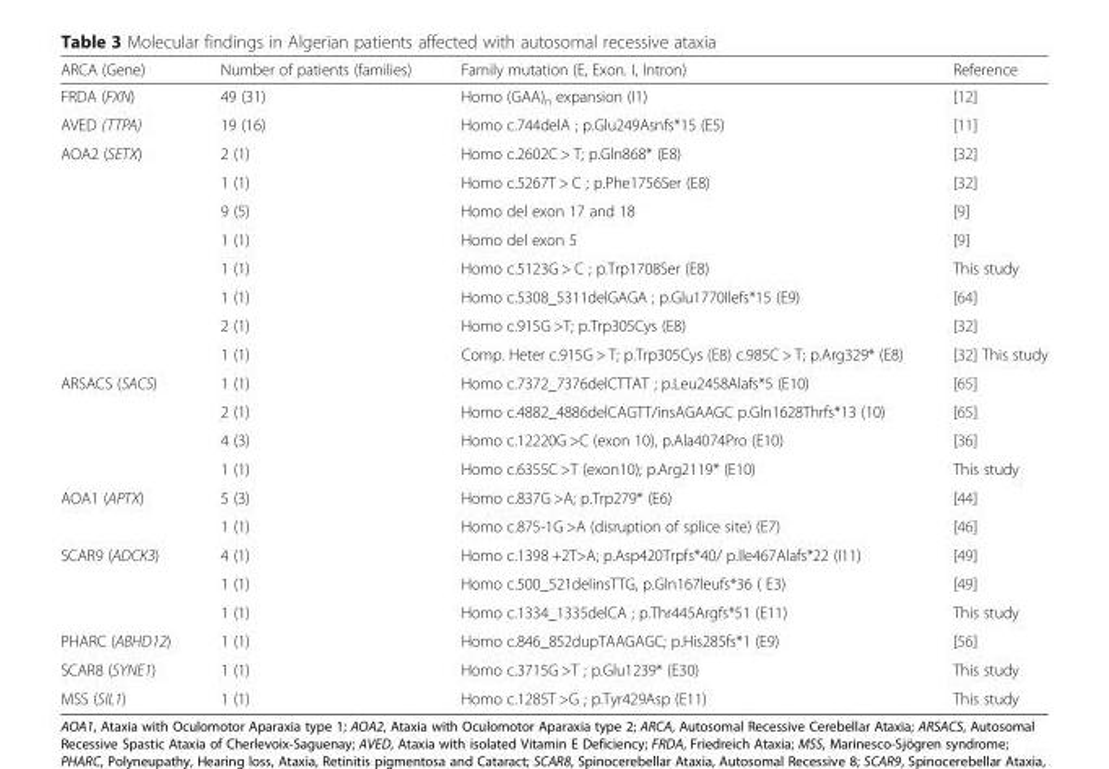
<table><thead><tr><td>ARCA (Gene)</td><td>Number of patients (families)</td><td>Family mutation (E, Exon. I, Intron)</td><td>Reference</td></tr></thead><tbody><tr><td>FRDA (FXN)</td><td>49 (31)</td><td>Homo (GAA)<sub>n</sub> expansion (I1)</td><td>[12]</td></tr><tr><td>AVED (TTPA)</td><td>19 (16)</td><td>Homo c.744delA ; p.Glu249Asnfs*15 (E5)</td><td>[11]</td></tr><tr><td rowspan="8">AOA2 (SETX)</td><td>2 (1)</td><td>Homo c.2602C &gt; T; p.Gln868* (E8)</td><td>[32]</td></tr><tr><td>1 (1)</td><td>Homo c.5267T &gt; C ; p.Phe1756Ser (E8)</td><td>[32]</td></tr><tr><td>9 (5)</td><td>Homo del exon 17 and 18</td><td>[9]</td></tr><tr><td>1 (1)</td><td>Homo del exon 5</td><td>[9]</td></tr><tr><td>1 (1)</td><td>Homo c.5123G &gt; C ; p.Trp1708Ser (E8)</td><td>This study</td></tr><tr><td>1 (1)</td><td>Homo c.5308_5311delGAGA ; p.Glu1770Ilefs*15 (E9)</td><td>[64]</td></tr><tr><td>2 (1)</td><td>Homo c.915G &gt;T; p.Trp305Cys (E8)</td><td>[32]</td></tr><tr><td>1 (1)</td><td>Comp. Heter c.915G &gt; T; p.Trp305Cys (E8) c.985C &gt; T; p.Arg329* (E8)</td><td>[32] This study</td></tr><tr><td rowspan="4">ARSACS (SACS)</td><td>1 (1)</td><td>Homo c.7372_7376delCTTAT ; p.Leu2458Alafs*5 (E10)</td><td>[65]</td></tr><tr><td>2 (1)</td><td>Homo c.4882_4886delCAGTT/insAGAAGC p.Gln1628Thrfs*13 (10)</td><td>[65]</td></tr><tr><td>4 (3)</td><td>Homo c.12220G &gt;C (exon 10), p.Ala4074Pro (E10)</td><td>[36]</td></tr><tr><td>1 (1)</td><td>Homo c.6355C &gt;T (exon10); p.Arg2119* (E10)</td><td>This study</td></tr><tr><td rowspan="2">AOA1 (APTX)</td><td>5 (3)</td><td>Homo c.837G &gt;A; p.Trp279* (E6)</td><td>[44]</td></tr><tr><td>1 (1)</td><td>Homo c.875-1G &gt;A (disruption of splice site) (E7)</td><td>[46]</td></tr><tr><td rowspan="3">SCAR9 (ADCK3)</td><td>4 (1)</td><td>Homo c.1398 +2T&gt;A; p.Asp420Trpfs*40/ p.Ile467Alafs*22 (I11)</td><td>[49]</td></tr><tr><td>1 (1)</td><td>Homo c.500_521delinsTTG, p.Gln167leufs*36 ( E3)</td><td>[49]</td></tr><tr><td>1 (1)</td><td>Homo c.1334_1335delCA ; p.Thr445Argfs*51 (E11)</td><td>This study</td></tr><tr><td>PHARC (ABHD12)</td><td>1 (1)</td><td>Homo c.846_852dupTAAGAGC; p.His285fs*1 (E9)</td><td>[56]</td></tr><tr><td>SCAR8 (SYNE1)</td><td>1 (1)</td><td>Homo c.3715G &gt;T ; p.Glu1239* (E30)</td><td>This study</td></tr><tr><td>MSS (SIL1)</td><td>1 (1)</td><td>Homo c.1285T &gt;G ; p.Tyr429Asp (E11)</td><td>This study</td></tr></tbody></table>